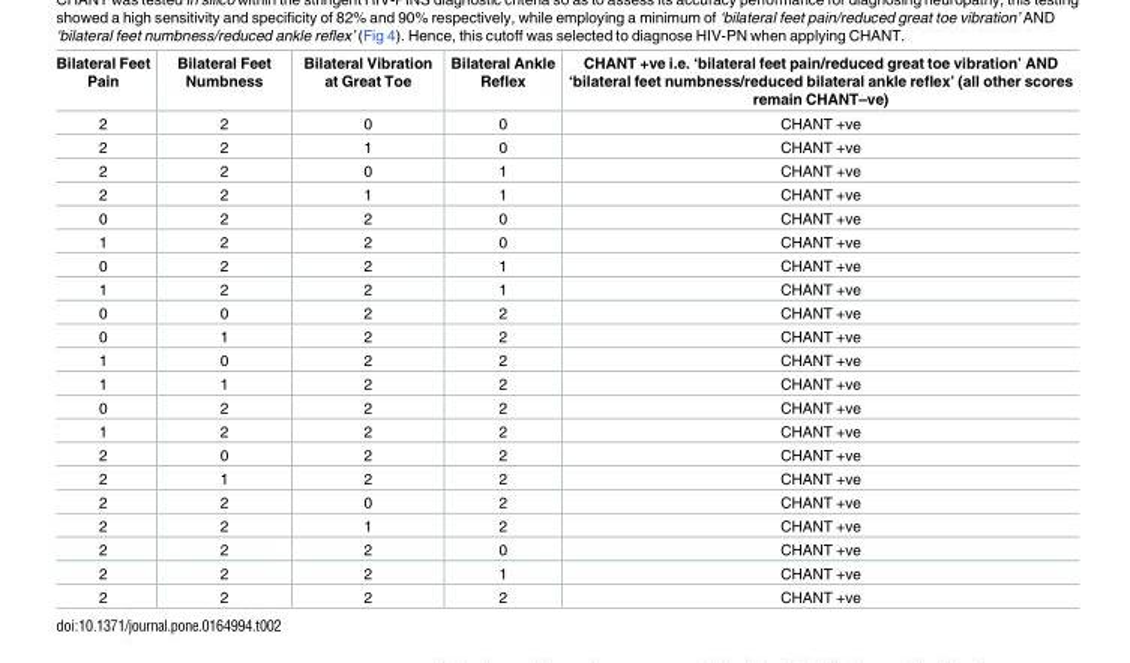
<table><thead><tr><td>Bilateral Feet Pain</td><td>Bilateral Feet Numbness</td><td>Bilateral Vibration at Great Toe</td><td>Bilateral Ankle Reflex</td><td>CHANT +ve i.e. ‘bilateral feet pain/reduced great toe vibration’ AND ‘bilateral feet numbness/reduced bilateral ankle reflex’ (all other scores remain CHANT–ve)</td></tr></thead><tbody><tr><td>2</td><td>2</td><td>0</td><td>0</td><td>CHANT +ve</td></tr><tr><td>2</td><td>2</td><td>1</td><td>0</td><td>CHANT +ve</td></tr><tr><td>2</td><td>2</td><td>0</td><td>1</td><td>CHANT +ve</td></tr><tr><td>2</td><td>2</td><td>1</td><td>1</td><td>CHANT +ve</td></tr><tr><td>0</td><td>2</td><td>2</td><td>0</td><td>CHANT +ve</td></tr><tr><td>1</td><td>2</td><td>2</td><td>0</td><td>CHANT +ve</td></tr><tr><td>0</td><td>2</td><td>2</td><td>1</td><td>CHANT +ve</td></tr><tr><td>1</td><td>2</td><td>2</td><td>1</td><td>CHANT +ve</td></tr><tr><td>0</td><td>0</td><td>2</td><td>2</td><td>CHANT +ve</td></tr><tr><td>0</td><td>1</td><td>2</td><td>2</td><td>CHANT +ve</td></tr><tr><td>1</td><td>0</td><td>2</td><td>2</td><td>CHANT +ve</td></tr><tr><td>1</td><td>1</td><td>2</td><td>2</td><td>CHANT +ve</td></tr><tr><td>0</td><td>2</td><td>2</td><td>2</td><td>CHANT +ve</td></tr><tr><td>1</td><td>2</td><td>2</td><td>2</td><td>CHANT +ve</td></tr><tr><td>2</td><td>0</td><td>2</td><td>2</td><td>CHANT +ve</td></tr><tr><td>2</td><td>1</td><td>2</td><td>2</td><td>CHANT +ve</td></tr><tr><td>2</td><td>2</td><td>0</td><td>2</td><td>CHANT +ve</td></tr><tr><td>2</td><td>2</td><td>1</td><td>2</td><td>CHANT +ve</td></tr><tr><td>2</td><td>2</td><td>2</td><td>0</td><td>CHANT +ve</td></tr><tr><td>2</td><td>2</td><td>2</td><td>1</td><td>CHANT +ve</td></tr><tr><td>2</td><td>2</td><td>2</td><td>2</td><td>CHANT +ve</td></tr></tbody></table>